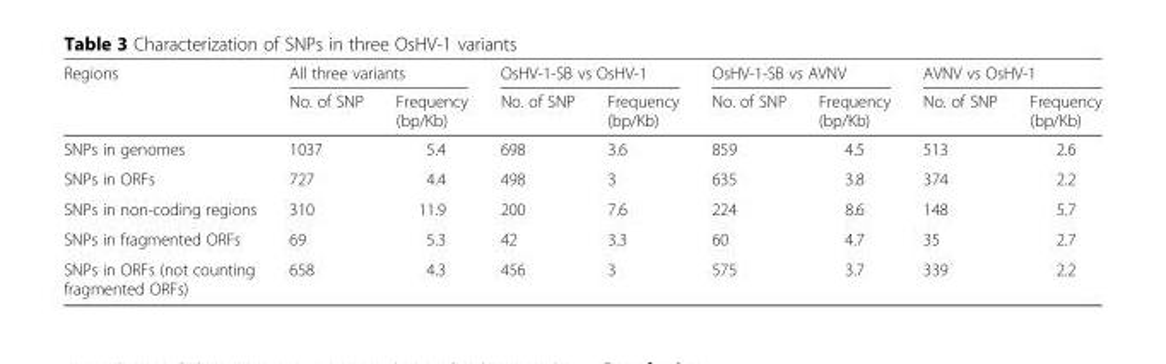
<table><thead><tr><td rowspan="2">Regions</td><td colspan="2">All three variants</td><td colspan="2">OsHV-1-SB vs OsHV-1</td><td colspan="2">OsHV-1-SB vs AVNV</td><td colspan="2">AVNV vs OsHV-1</td></tr><tr><td>No. of SNP</td><td>Frequency (bp/Kb)</td><td>No. of SNP</td><td>Frequency (bp/Kb)</td><td>No. of SNP</td><td>Frequency (bp/Kb)</td><td>No. of SNP</td><td>Frequency (bp/Kb)</td></tr></thead><tbody><tr><td>SNPs in genomes</td><td>1037</td><td>5.4</td><td>698</td><td>3.6</td><td>859</td><td>4.5</td><td>513</td><td>2.6</td></tr><tr><td>SNPs in ORFs</td><td>727</td><td>4.4</td><td>498</td><td>3</td><td>635</td><td>3.8</td><td>374</td><td>2.2</td></tr><tr><td>SNPs in non-coding regions</td><td>310</td><td>11.9</td><td>200</td><td>7.6</td><td>224</td><td>8.6</td><td>148</td><td>5.7</td></tr><tr><td>SNPs in fragmented ORFs</td><td>69</td><td>5.3</td><td>42</td><td>3.3</td><td>60</td><td>4.7</td><td>35</td><td>2.7</td></tr><tr><td>SNPs in ORFs (not counting fragmented ORFs)</td><td>658</td><td>4.3</td><td>456</td><td>3</td><td>575</td><td>3.7</td><td>339</td><td>2.2</td></tr></tbody></table>